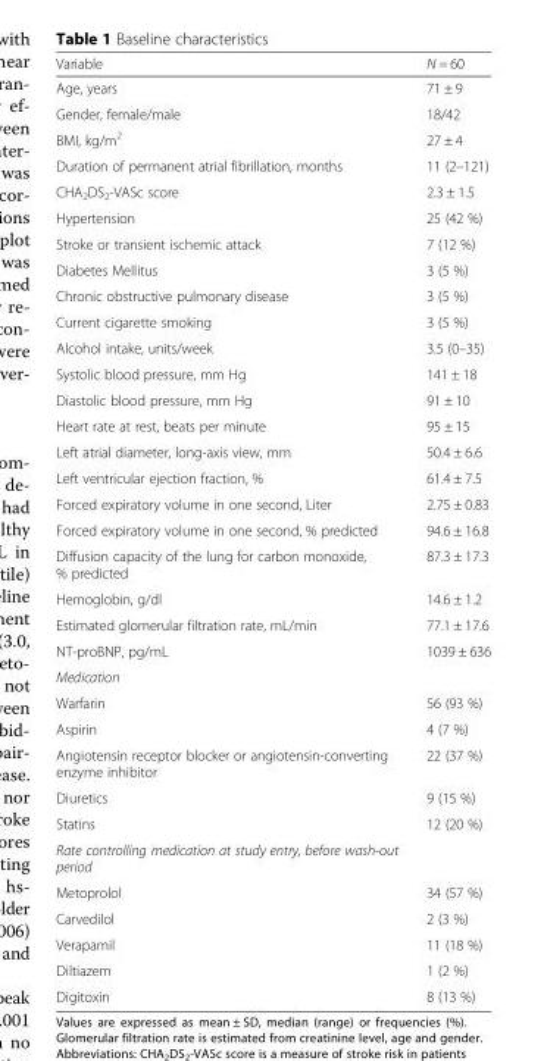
<table><thead><tr><td>Variable</td><td>N = 60</td></tr></thead><tbody><tr><td>Age, years</td><td>71 ± 9</td></tr><tr><td>Gender, female/male</td><td>18/42</td></tr><tr><td>BMI, kg/m<sup>2</sup></td><td>27 ± 4</td></tr><tr><td>Duration of permanent atrial fibrillation, months</td><td>11 (2–121)</td></tr><tr><td>CHA<sub>2</sub>DS<sub>2</sub>-VASc score</td><td>2.3 ± 1.5</td></tr><tr><td>Hypertension</td><td>25 (42 %)</td></tr><tr><td>Stroke or transient ischemic attack</td><td>7 (12 %)</td></tr><tr><td>Diabetes Mellitus</td><td>3 (5 %)</td></tr><tr><td>Chronic obstructive pulmonary disease</td><td>3 (5 %)</td></tr><tr><td>Current cigarette smoking</td><td>3 (5 %)</td></tr><tr><td>Alcohol intake, units/week</td><td>3.5 (0–35)</td></tr><tr><td>Systolic blood pressure, mm Hg</td><td>141 ± 18</td></tr><tr><td>Diastolic blood pressure, mm Hg</td><td>91 ± 10</td></tr><tr><td>Heart rate at rest, beats per minute</td><td>95 ± 15</td></tr><tr><td>Left atrial diameter, long-axis view, mm</td><td>50.4 ± 6.6</td></tr><tr><td>Left ventricular ejection fraction, %</td><td>61.4 ± 7.5</td></tr><tr><td>Forced expiratory volume in one second, Liter</td><td>2.75 ± 0.83</td></tr><tr><td>Forced expiratory volume in one second, % predicted</td><td>94.6 ± 16.8</td></tr><tr><td>Diffusion capacity of the lung for carbon monoxide, % predicted</td><td>87.3 ± 17.3</td></tr><tr><td>Hemoglobin, g/dl</td><td>14.6 ± 1.2</td></tr><tr><td>Estimated glomerular filtration rate, mL/min</td><td>77.1 ± 17.6</td></tr><tr><td>NT-proBNP, pg/mL</td><td>1039 ± 636</td></tr><tr><td colspan="2">Medication</td></tr><tr><td>Warfarin</td><td>56 (93 %)</td></tr><tr><td>Aspirin</td><td>4 (7 %)</td></tr><tr><td>Angiotensin receptor blocker or angiotensin-converting enzyme inhibitor</td><td>22 (37 %)</td></tr><tr><td>Diuretics</td><td>9 (15 %)</td></tr><tr><td>Statins</td><td>12 (20 %)</td></tr><tr><td colspan="2">Rate controlling medication at study entry, before wash-out period</td></tr><tr><td>Metoprolol</td><td>34 (57 %)</td></tr><tr><td>Carvedilol</td><td>2 (3 %)</td></tr><tr><td>Verapamil</td><td>11 (18 %)</td></tr><tr><td>Diltiazem</td><td>1 (2 %)</td></tr><tr><td>Digitoxin</td><td>8 (13 %)</td></tr></tbody></table>